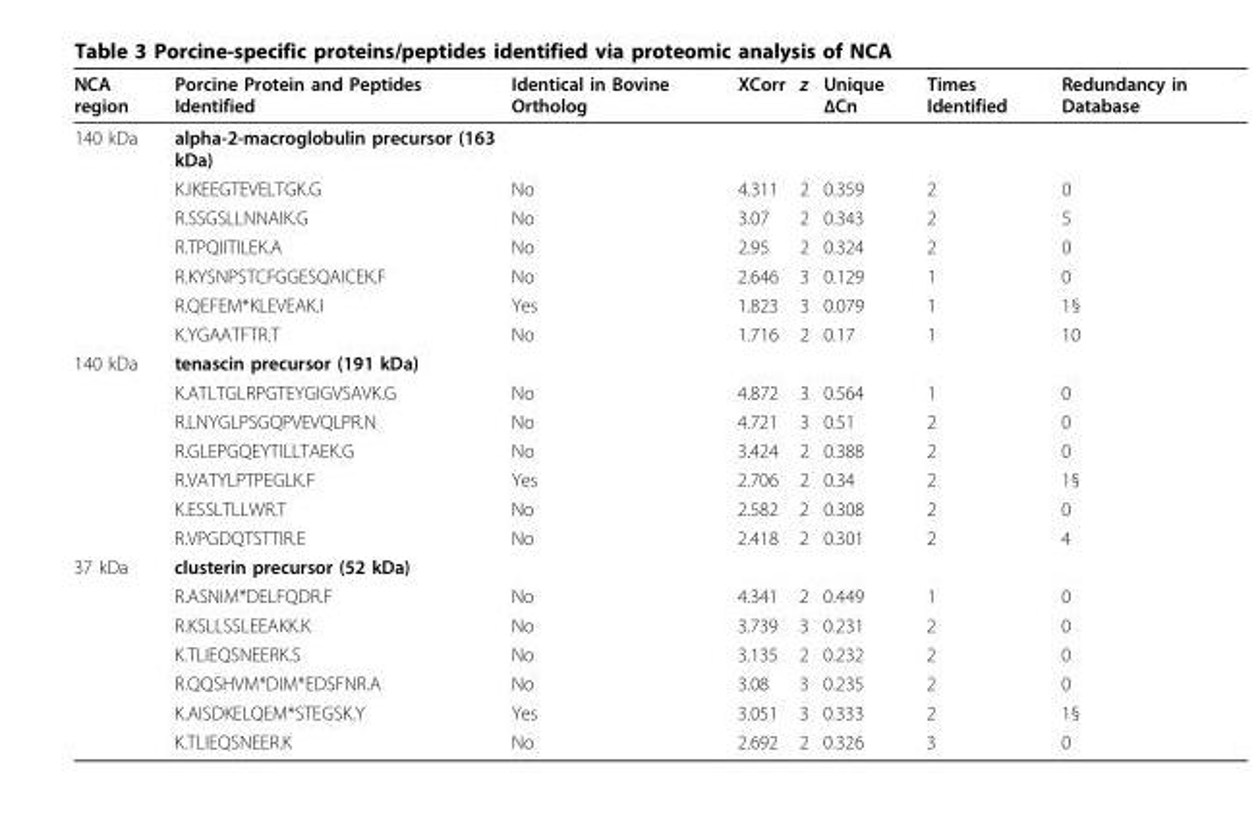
<table><thead><tr><td>NCA region</td><td>Porcine Protein and Peptides Identified</td><td>Identical in Bovine Ortholog</td><td>XCorr</td><td>z</td><td>Unique ΔCn</td><td>Times Identified</td><td>Redundancy in Database</td></tr></thead><tbody><tr><td rowspan="7">140 kDa</td><td>alpha-2-macroglobulin precursor (163 kDa)</td><td></td><td></td><td></td><td></td><td></td><td></td></tr><tr><td>K.IKEEGTEVELTGK.G</td><td>No</td><td>4.311</td><td>2</td><td>0.359</td><td>2</td><td>0</td></tr><tr><td>R.SSGSLLNNAIK.G</td><td>No</td><td>3.07</td><td>2</td><td>0.343</td><td>2</td><td>5</td></tr><tr><td>R.TPQIITILEK.A</td><td>No</td><td>2.95</td><td>2</td><td>0.324</td><td>2</td><td>0</td></tr><tr><td>R.KYSNPSTCFGGESQAICEK.F</td><td>No</td><td>2.646</td><td>3</td><td>0.129</td><td>1</td><td>0</td></tr><tr><td>R.QEFEM*KLEVEAK.I</td><td>Yes</td><td>1.823</td><td>3</td><td>0.079</td><td>1</td><td>1§</td></tr><tr><td>K.YGAATFTR.T</td><td>No</td><td>1.716</td><td>2</td><td>0.17</td><td>1</td><td>10</td></tr><tr><td rowspan="7">140 kDa</td><td>tenascin precursor (191 kDa)</td><td></td><td></td><td></td><td></td><td></td><td></td></tr><tr><td>K.ATLTGLRPGTEYGIGVSAVK.G</td><td>No</td><td>4.872</td><td>3</td><td>0.564</td><td>1</td><td>0</td></tr><tr><td>R.LNYGLPSGQPVEVQLPR.N</td><td>No</td><td>4.721</td><td>3</td><td>0.51</td><td>2</td><td>0</td></tr><tr><td>R.GLEPGQEYTILLTAEK.G</td><td>No</td><td>3.424</td><td>2</td><td>0.388</td><td>2</td><td>0</td></tr><tr><td>R.VATYLPTPEGLK.F</td><td>Yes</td><td>2.706</td><td>2</td><td>0.34</td><td>2</td><td>1§</td></tr><tr><td>K.ESSLTLLWR.T</td><td>No</td><td>2.582</td><td>2</td><td>0.308</td><td>2</td><td>0</td></tr><tr><td>R.VPGDQTSTTIR.E</td><td>No</td><td>2.418</td><td>2</td><td>0.301</td><td>2</td><td>4</td></tr><tr><td rowspan="7">37 kDa</td><td>clusterin precursor (52 kDa)</td><td></td><td></td><td></td><td></td><td></td><td></td></tr><tr><td>R.ASNIM*DELFQDR.F</td><td>No</td><td>4.341</td><td>2</td><td>0.449</td><td>1</td><td>0</td></tr><tr><td>R.KSLLSSLEEAKK.K</td><td>No</td><td>3.739</td><td>3</td><td>0.231</td><td>2</td><td>0</td></tr><tr><td>K.TLIEQSNEERK.S</td><td>No</td><td>3.135</td><td>2</td><td>0.232</td><td>2</td><td>0</td></tr><tr><td>R.QQSHVM*DIM*EDSFNR.A</td><td>No</td><td>3.08</td><td>3</td><td>0.235</td><td>2</td><td>0</td></tr><tr><td>K.AISDKELQEM*STEGSK.Y</td><td>Yes</td><td>3.051</td><td>3</td><td>0.333</td><td>2</td><td>1§</td></tr><tr><td>K.TLIEQSNEER.K</td><td>No</td><td>2.692</td><td>2</td><td>0.326</td><td>3</td><td>0</td></tr></tbody></table>